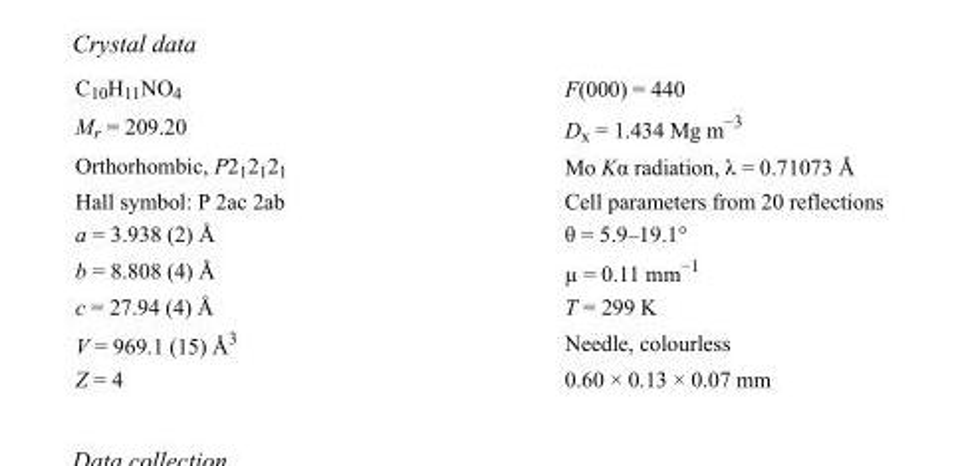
<table><tbody><tr><td>C<sub>10</sub>H<sub>11</sub>NO<sub>4</sub></td><td>F(000) = 440</td></tr><tr><td>M<sub>r</sub> = 209.20</td><td>D<sub>x</sub> = 1.434 Mg m<sup>−3</sup></td></tr><tr><td>Orthorhombic, P2<sub>1</sub>2<sub>1</sub>2<sub>1</sub></td><td>Mo Kα radiation, λ = 0.71073 Å</td></tr><tr><td>Hall symbol: P 2ac 2ab</td><td>Cell parameters from 20 reflections</td></tr><tr><td>a = 3.938 (2) Å</td><td>θ = 5.9–19.1°</td></tr><tr><td>b = 8.808 (4) Å</td><td>µ = 0.11 mm<sup>−1</sup></td></tr><tr><td>c = 27.94 (4) Å</td><td>T = 299 K</td></tr><tr><td>V = 969.1 (15) Å<sup>3</sup></td><td>Needle, colourless</td></tr><tr><td>Z = 4</td><td>0.60 × 0.13 × 0.07 mm</td></tr></tbody></table>